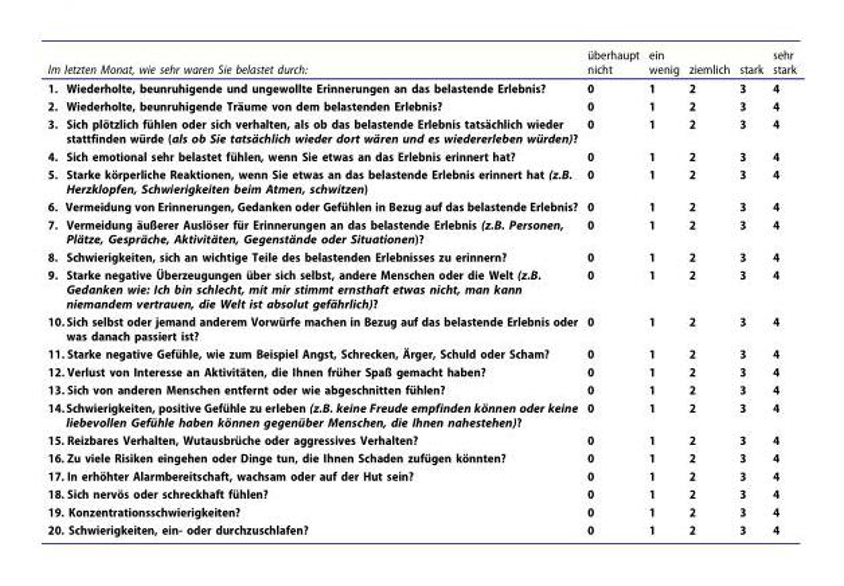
<table><thead><tr><td>Im letzten Monat, wie sehr waren Sie belastet durch:</td><td>überhaupt nicht</td><td>ein wenig</td><td>ziemlich</td><td>stark</td><td>sehr stark</td></tr></thead><tbody><tr><td>1. Wiederholte, beunruhigende und ungewollte Erinnerungen an das belastende Erlebnis?</td><td>0</td><td>1</td><td>2</td><td>3</td><td>4</td></tr><tr><td>2. Wiederholte, beunruhigende Träume von dem belastenden Erlebnis?</td><td>0</td><td>1</td><td>2</td><td>3</td><td>4</td></tr><tr><td>3. Sich plötzlich fühlen oder sich verhalten, als ob das belastende Erlebnis tatsächlich wieder stattfinden würde (als ob Sie tatsächlich wieder dort wären und es wiedererleben würden)?</td><td>0</td><td>1</td><td>2</td><td>3</td><td>4</td></tr><tr><td>4. Sich emotional sehr belastet fühlen, wenn Sie etwas an das Erlebnis erinnert hat?</td><td>0</td><td>1</td><td>2</td><td>3</td><td>4</td></tr><tr><td>5. Starke körperliche Reaktionen, wenn Sie etwas an das belastende Erlebnis erinnert hat (z.B. Herzklopfen, Schwierigkeiten beim Atmen, schwitzen)</td><td>0</td><td>1</td><td>2</td><td>3</td><td>4</td></tr><tr><td>6. Vermeidung von Erinnerungen, Gedanken oder Gefühlen in Bezug auf das belastende Erlebnis?</td><td>0</td><td>1</td><td>2</td><td>3</td><td>4</td></tr><tr><td>7. Vermeidung äußerer Auslöser für Erinnerungen an das belastende Erlebnis (z.B. Personen, Plätze, Gespräche, Aktivitäten, Gegenstände oder Situationen)?</td><td>0</td><td>1</td><td>2</td><td>3</td><td>4</td></tr><tr><td>8. Schwierigkeiten, sich an wichtige Teile des belastenden Erlebnisses zu erinnern?</td><td>0</td><td>1</td><td>2</td><td>3</td><td>4</td></tr><tr><td>9. Starke negative Überzeugungen über sich selbst, andere Menschen oder die Welt (z.B. Gedanken wie: Ich bin schlecht, mit mir stimmt ernsthaft etwas nicht, man kann niemandem vertrauen, die Welt ist absolut gefährlich)?</td><td>0</td><td>1</td><td>2</td><td>3</td><td>4</td></tr><tr><td>10. Sich selbst oder jemand anderem Vorwürfe machen in Bezug auf das belastende Erlebnis oder was danach passiert ist?</td><td>0</td><td>1</td><td>2</td><td>3</td><td>4</td></tr><tr><td>11. Starke negative Gefühle, wie zum Beispiel Angst, Schrecken, Ärger, Schuld oder Scham?</td><td>0</td><td>1</td><td>2</td><td>3</td><td>4</td></tr><tr><td>12. Verlust von Interesse an Aktivitäten, die Ihnen früher Spaß gemacht haben?</td><td>0</td><td>1</td><td>2</td><td>3</td><td>4</td></tr><tr><td>13. Sich von anderen Menschen entfernt oder wie abgeschnitten fühlen?</td><td>0</td><td>1</td><td>2</td><td>3</td><td>4</td></tr><tr><td>14.Schwierigkeiten, positive Gefühle zu erleben (z.B. keine Freude empfinden können oder keine liebevollen Gefühle haben können gegenüber Menschen, die Ihnen nahestehen)?</td><td>0</td><td>1</td><td>2</td><td>3</td><td>4</td></tr><tr><td>15. Reizbares Verhalten, Wutausbrüche oder aggressives Verhalten?</td><td>0</td><td>1</td><td>2</td><td>3</td><td>4</td></tr><tr><td>16. Zu viele Risiken eingehen oder Dinge tun, die Ihnen Schaden zufügen könnten?</td><td>0</td><td>1</td><td>2</td><td>3</td><td>4</td></tr><tr><td>17. In erhöhter Alarmbereitschaft, wachsam oder auf der Hut sein?</td><td>0</td><td>1</td><td>2</td><td>3</td><td>4</td></tr><tr><td>18. Sich nervös oder schreckhaft fühlen?</td><td>0</td><td>1</td><td>2</td><td>3</td><td>4</td></tr><tr><td>19. Konzentrationsschwierigkeiten?</td><td>0</td><td>1</td><td>2</td><td>3</td><td>4</td></tr><tr><td>20. Schwierigkeiten, ein- oder durchzuschlafen?</td><td>0</td><td>1</td><td>2</td><td>3</td><td>4</td></tr></tbody></table>